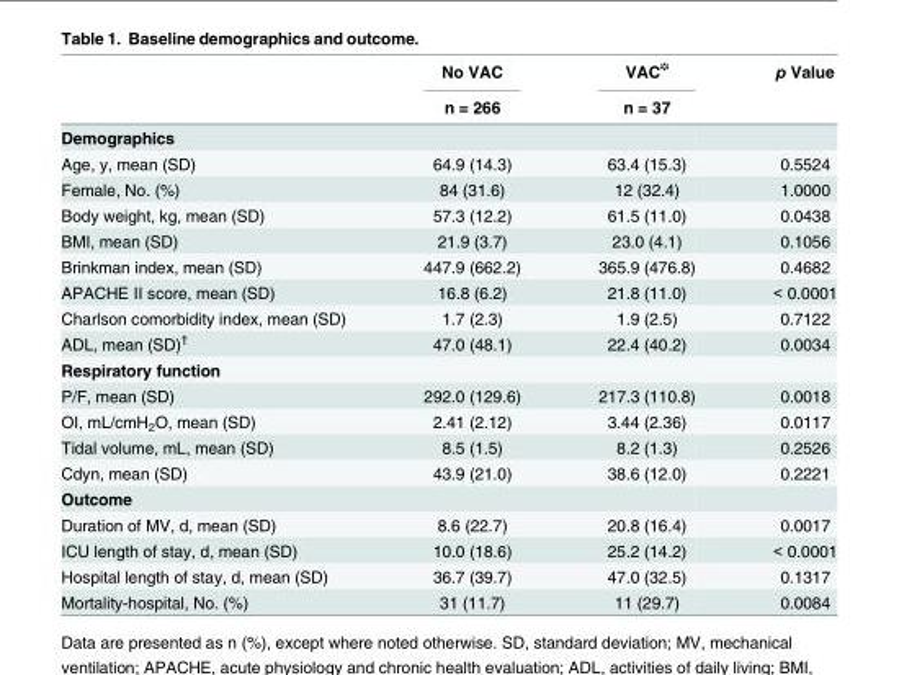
<table><thead><tr><td rowspan="2"></td><td rowspan="2">No VAC n = 266</td><td rowspan="2">VAC<sup>✽</sup> n = 37</td><td rowspan="2">p Value</td></tr><tr></tr></thead><tbody><tr><td colspan="4">Demographics</td></tr><tr><td>Age, y, mean (SD)</td><td>64.9 (14.3)</td><td>63.4 (15.3)</td><td>0.5524</td></tr><tr><td>Female, No. (%)</td><td>84 (31.6)</td><td>12 (32.4)</td><td>1.0000</td></tr><tr><td>Body weight, kg, mean (SD)</td><td>57.3 (12.2)</td><td>61.5 (11.0)</td><td>0.0438</td></tr><tr><td>BMI, mean (SD)</td><td>21.9 (3.7)</td><td>23.0 (4.1)</td><td>0.1056</td></tr><tr><td>Brinkman index, mean (SD)</td><td>447.9 (662.2)</td><td>365.9 (476.8)</td><td>0.4682</td></tr><tr><td>APACHE Ⅱ score, mean (SD)</td><td>16.8 (6.2)</td><td>21.8 (11.0)</td><td>&lt; 0.0001</td></tr><tr><td>Charlson comorbidity index, mean (SD)</td><td>1.7 (2.3)</td><td>1.9 (2.5)</td><td>0.7122</td></tr><tr><td>ADL, mean (SD)<sup>†</sup></td><td>47.0 (48.1)</td><td>22.4 (40.2)</td><td>0.0034</td></tr><tr><td colspan="4">Respiratory function</td></tr><tr><td>P/F, mean (SD)</td><td>292.0 (129.6)</td><td>217.3 (110.8)</td><td>0.0018</td></tr><tr><td>OI, mL/cmH<sub>2</sub>O, mean (SD)</td><td>2.41 (2.12)</td><td>3.44 (2.36)</td><td>0.0117</td></tr><tr><td>Tidal volume, mL, mean (SD)</td><td>8.5 (1.5)</td><td>8.2 (1.3)</td><td>0.2526</td></tr><tr><td>Cdyn, mean (SD)</td><td>43.9 (21.0)</td><td>38.6 (12.0)</td><td>0.2221</td></tr><tr><td colspan="4">Outcome</td></tr><tr><td>Duration of MV, d, mean (SD)</td><td>8.6 (22.7)</td><td>20.8 (16.4)</td><td>0.0017</td></tr><tr><td>ICU length of stay, d, mean (SD)</td><td>10.0 (18.6)</td><td>25.2 (14.2)</td><td>&lt; 0.0001</td></tr><tr><td>Hospital length of stay, d, mean (SD)</td><td>36.7 (39.7)</td><td>47.0 (32.5)</td><td>0.1317</td></tr><tr><td>Mortality-hospital, No. (%)</td><td>31 (11.7)</td><td>11 (29.7)</td><td>0.0084</td></tr></tbody></table>